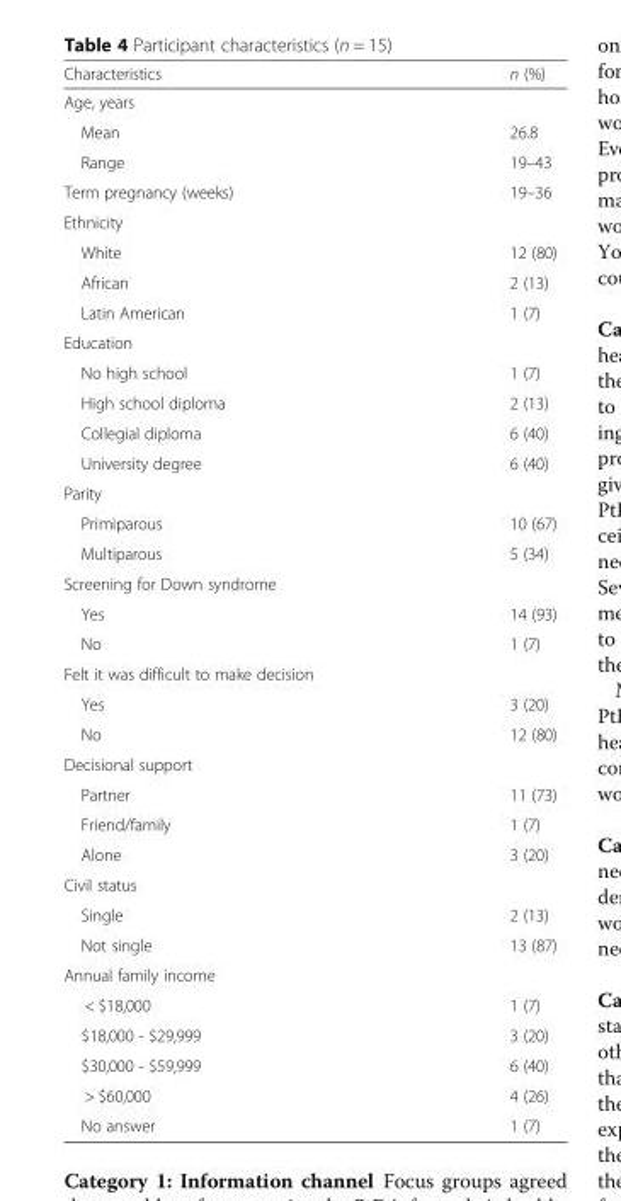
<table><thead><tr><td>Characteristics</td><td>n (%)</td></tr></thead><tbody><tr><td colspan="2">Age, years</td></tr><tr><td>Mean</td><td>26.8</td></tr><tr><td>Range</td><td>19–43</td></tr><tr><td>Term pregnancy (weeks)</td><td>19–36</td></tr><tr><td colspan="2">Ethnicity</td></tr><tr><td>White</td><td>12 (80)</td></tr><tr><td>African</td><td>2 (13)</td></tr><tr><td>Latin American</td><td>1 (7)</td></tr><tr><td colspan="2">Education</td></tr><tr><td>No high school</td><td>1 (7)</td></tr><tr><td>High school diploma</td><td>2 (13)</td></tr><tr><td>Collegial diploma</td><td>6 (40)</td></tr><tr><td>University degree</td><td>6 (40)</td></tr><tr><td colspan="2">Parity</td></tr><tr><td>Primiparous</td><td>10 (67)</td></tr><tr><td>Multiparous</td><td>5 (34)</td></tr><tr><td colspan="2">Screening for Down syndrome</td></tr><tr><td>Yes</td><td>14 (93)</td></tr><tr><td>No</td><td>1 (7)</td></tr><tr><td colspan="2">Felt it was difficult to make decision</td></tr><tr><td>Yes</td><td>3 (20)</td></tr><tr><td>No</td><td>12 (80)</td></tr><tr><td colspan="2">Decisional support</td></tr><tr><td>Partner</td><td>11 (73)</td></tr><tr><td>Friend/family</td><td>1 (7)</td></tr><tr><td>Alone</td><td>3 (20)</td></tr><tr><td colspan="2">Civil status</td></tr><tr><td>Single</td><td>2 (13)</td></tr><tr><td>Not single</td><td>13 (87)</td></tr><tr><td colspan="2">Annual family income</td></tr><tr><td>&lt; $18,000</td><td>1 (7)</td></tr><tr><td>$18,000 - $29,999</td><td>3 (20)</td></tr><tr><td>$30,000 - $59,999</td><td>6 (40)</td></tr><tr><td>&gt; $60,000</td><td>4 (26)</td></tr><tr><td>No answer</td><td>1 (7)</td></tr></tbody></table>